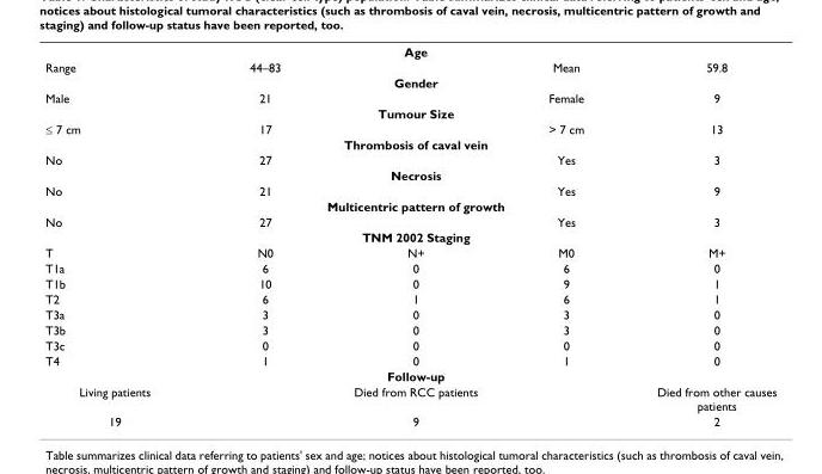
<table><tbody><tr><td colspan="5">Age</td></tr><tr><td>Range</td><td>44–83</td><td></td><td>Mean</td><td>59.8</td></tr><tr><td colspan="5">Gender</td></tr><tr><td>Male</td><td>21</td><td></td><td>Female</td><td>9</td></tr><tr><td colspan="5">Tumour Size</td></tr><tr><td>≤ 7 cm</td><td>17</td><td></td><td>&gt; 7 cm</td><td>13</td></tr><tr><td colspan="5">Thrombosis of caval vein</td></tr><tr><td>No</td><td>27</td><td></td><td>Yes</td><td>3</td></tr><tr><td colspan="5">Necrosis</td></tr><tr><td>No</td><td>21</td><td></td><td>Yes</td><td>9</td></tr><tr><td colspan="5">Multicentric pattern of growth</td></tr><tr><td>No</td><td>27</td><td></td><td>Yes</td><td>3</td></tr><tr><td colspan="5">TNM 2002 Staging</td></tr><tr><td>T</td><td>N0</td><td>N+</td><td>M0</td><td>M+</td></tr><tr><td>T1a</td><td>6</td><td>0</td><td>6</td><td>0</td></tr><tr><td>T1b</td><td>10</td><td>0</td><td>9</td><td>1</td></tr><tr><td>T2</td><td>6</td><td>1</td><td>6</td><td>1</td></tr><tr><td>T3a</td><td>3</td><td>0</td><td>3</td><td>0</td></tr><tr><td>T3b</td><td>3</td><td>0</td><td>3</td><td>0</td></tr><tr><td>T3c</td><td>0</td><td>0</td><td>0</td><td>0</td></tr><tr><td>T4</td><td>1</td><td>0</td><td>1</td><td>0</td></tr><tr><td colspan="5">Follow-up</td></tr><tr><td>Living patients</td><td></td><td>Died from RCC patients</td><td></td><td>Died from other causes patients</td></tr><tr><td>19</td><td></td><td>9</td><td></td><td>2</td></tr></tbody></table>